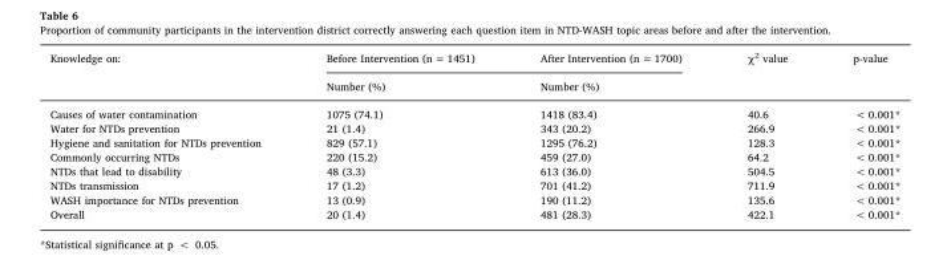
<table><thead><tr><td rowspan="2">Knowledge on:</td><td rowspan="2">Before Intervention (n = 1451) Number (%)</td><td rowspan="2">After Intervention (n = 1700) Number (%)</td><td rowspan="2">χ<sup>2</sup> value</td><td rowspan="2">p-value</td></tr><tr></tr></thead><tbody><tr><td>Causes of water contamination</td><td>1075 (74.1)</td><td>1418 (83.4)</td><td>40.6</td><td>&lt; 0.001*</td></tr><tr><td>Water for NTDs prevention</td><td>21 (1.4)</td><td>343 (20.2)</td><td>266.9</td><td>&lt; 0.001*</td></tr><tr><td>Hygiene and sanitation for NTDs prevention</td><td>829 (57.1)</td><td>1295 (76.2)</td><td>128.3</td><td>&lt; 0.001*</td></tr><tr><td>Commonly occurring NTDs</td><td>220 (15.2)</td><td>459 (27.0)</td><td>64.2</td><td>&lt; 0.001*</td></tr><tr><td>NTDs that lead to disability</td><td>48 (3.3)</td><td>613 (36.0)</td><td>504.5</td><td>&lt; 0.001*</td></tr><tr><td>NTDs transmission</td><td>17 (1.2)</td><td>701 (41.2)</td><td>711.9</td><td>&lt; 0.001*</td></tr><tr><td>WASH importance for NTDs prevention</td><td>13 (0.9)</td><td>190 (11.2)</td><td>135.6</td><td>&lt; 0.001*</td></tr><tr><td>Overall</td><td>20 (1.4)</td><td>481 (28.3)</td><td>422.1</td><td>&lt; 0.001*</td></tr></tbody></table>